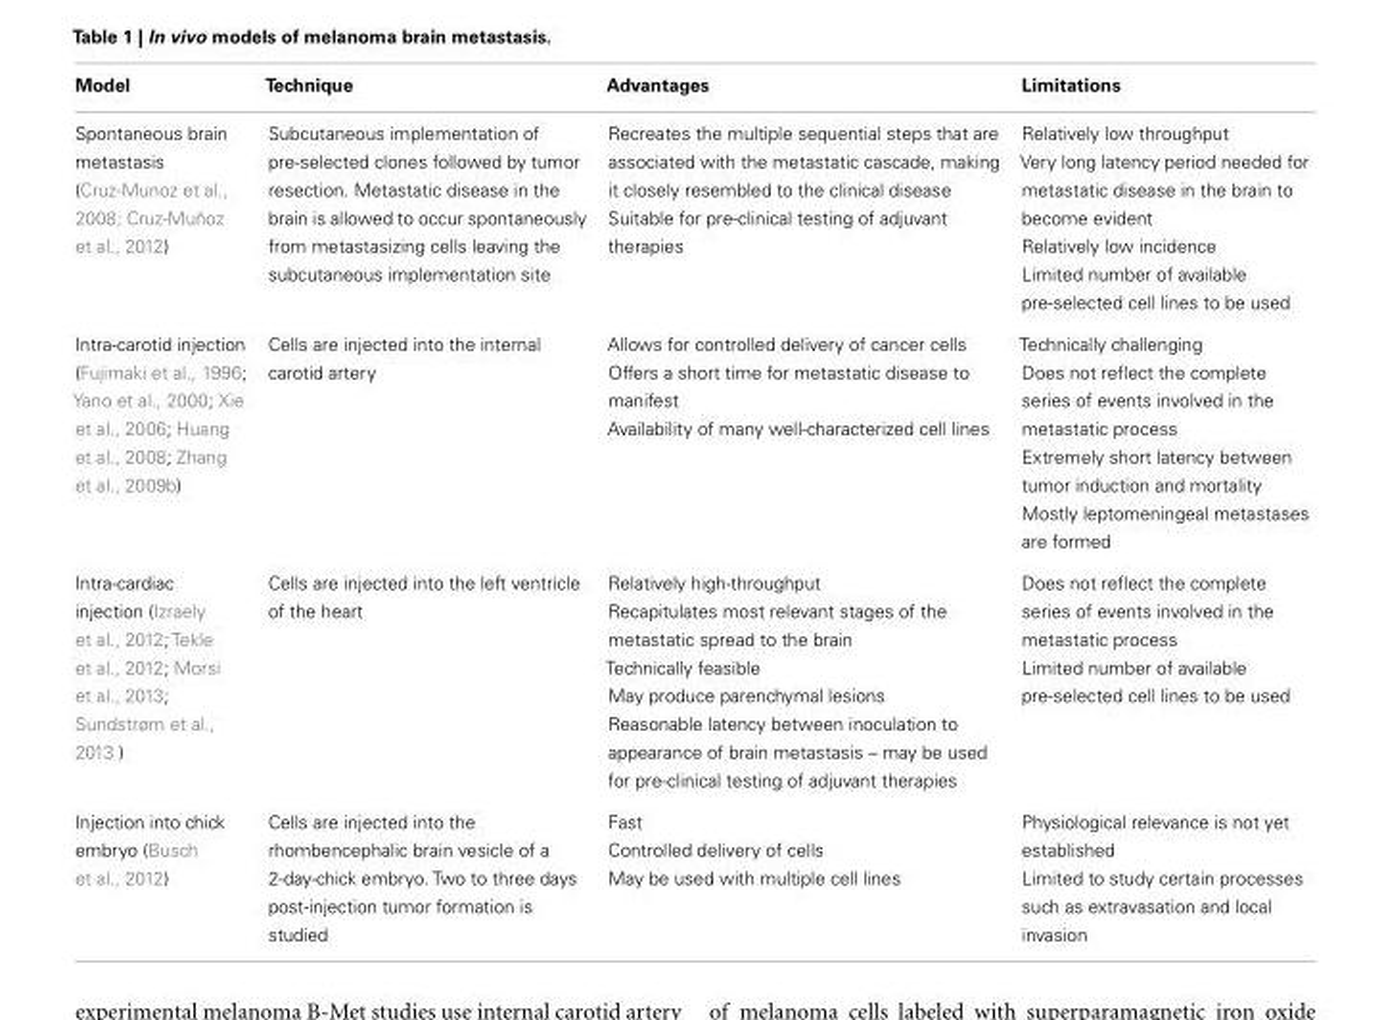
<table><thead><tr><td>Model</td><td>Technique</td><td>Advantages</td><td>Limitations</td></tr></thead><tbody><tr><td>Spontaneous brain metastasis (Cruz-Munoz et al., 2008; Cruz-Muñoz et al., 2012)</td><td>Subcutaneous implementation of pre-selected clones followed by tumor resection. Metastatic disease in the brain is allowed to occur spontaneously from metastasizing cells leaving the subcutaneous implementation site</td><td>Recreates the multiple sequential steps that are associated with the metastatic cascade, making it closely resembled to the clinical disease Suitable for pre-clinical testing of adjuvant therapies</td><td>Relatively low throughput Very long latency period needed for metastatic disease in the brain to become evident Relatively low incidence Limited number of available pre-selected cell lines to be used</td></tr><tr><td>Intra-carotid injection (Fujimaki et al., 1996; Yano et al., 2000; Xie et al., 2006; Huang et al., 2008; Zhang et al., 2009b)</td><td>Cells are injected into the internal carotid artery</td><td>Allows for controlled delivery of cancer cells Offers a short time for metastatic disease to manifest Availability of many well-characterized cell lines</td><td>Technically challenging Does not reflect the complete series of events involved in the metastatic process Extremely short latency between tumor induction and mortality Mostly leptomeningeal metastases are formed</td></tr><tr><td>Intra-cardiac injection (Izraely et al., 2012; Tekle et al., 2012; Morsi et al., 2013; Sundstrøm et al., 2013 )</td><td>Cells are injected into the left ventricle of the heart</td><td>Relatively high-throughput Recapitulates most relevant stages of the metastatic spread to the brain Technically feasible May produce parenchymal lesions Reasonable latency between inoculation to appearance of brain metastasis – may be used for pre-clinical testing of adjuvant therapies</td><td>Does not reflect the complete series of events involved in the metastatic process Limited number of available pre-selected cell lines to be used</td></tr><tr><td>Injection into chick embryo (Busch et al., 2012)</td><td>Cells are injected into the rhombencephalic brain vesicle of a 2-day-chick embryo. Two to three days post-injection tumor formation is studied</td><td>Fast Controlled delivery of cells May be used with multiple cell lines</td><td>Physiological relevance is not yet established Limited to study certain processes such as extravasation and local invasion</td></tr></tbody></table>